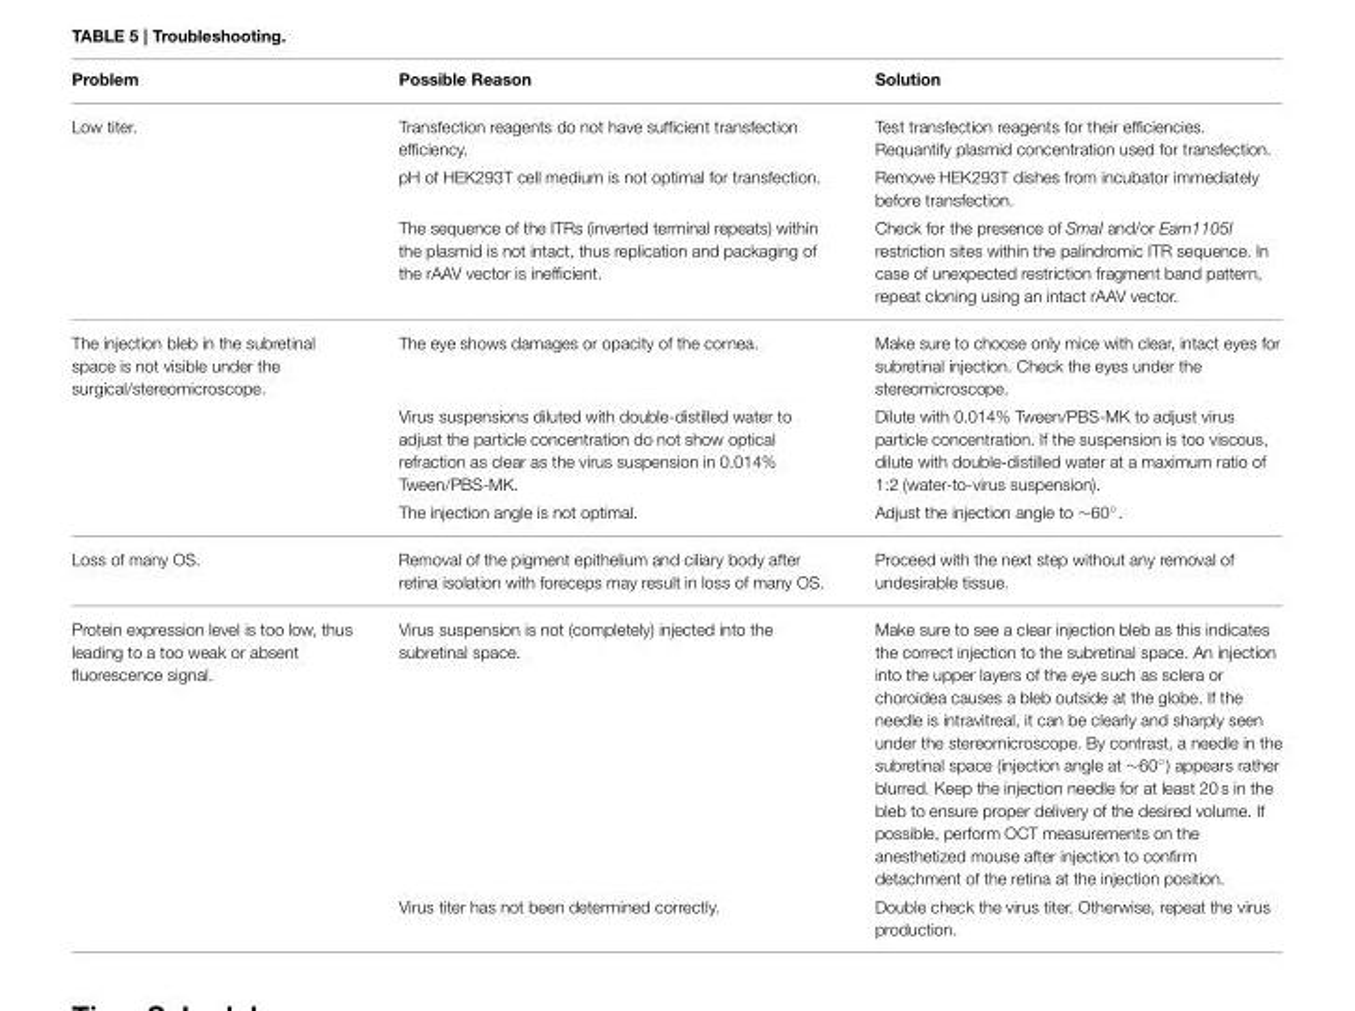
<table><thead><tr><td>Problem</td><td>Possible Reason</td><td>Solution</td></tr></thead><tbody><tr><td rowspan="3">Low titer.</td><td>Transfection reagents do not have sufficient transfection efficiency.</td><td>Test transfection reagents for their efficiencies. Requantify plasmid concentration used for transfection.</td></tr><tr><td>pH of HEK293T cell medium is not optimal for transfection.</td><td>Remove HEK293T dishes from incubator immediately before transfection.</td></tr><tr><td>The sequence of the ITRs (inverted terminal repeats) within the plasmid is not intact, thus replication and packaging of the rAAV vector is inefficient.</td><td>Check for the presence of SmaI and/or Eam1105I restriction sites within the palindromic ITR sequence. In case of unexpected restriction fragment band pattern, repeat cloning using an intact rAAV vector.</td></tr><tr><td rowspan="3">The injection bleb in the subretinal space is not visible under the surgical/stereomicroscope.</td><td>The eye shows damages or opacity of the cornea.</td><td>Make sure to choose only mice with clear, intact eyes for subretinal injection. Check the eyes under the stereomicroscope.</td></tr><tr><td>Virus suspensions diluted with double-distilled water to adjust the particle concentration do not show optical refraction as clear as the virus suspension in 0.014% Tween/PBS-MK.</td><td>Dilute with 0.014% Tween/PBS-MK to adjust virus particle concentration. If the suspension is too viscous, dilute with double-distilled water at a maximum ratio of 1:2 (water-to-virus suspension).</td></tr><tr><td>The injection angle is not optimal.</td><td>Adjust the injection angle to ∼60◦.</td></tr><tr><td>Loss of many OS.</td><td>Removal of the pigment epithelium and ciliary body after retina isolation with foreceps may result in loss of many OS.</td><td>Proceed with the next step without any removal of undesirable tissue.</td></tr><tr><td rowspan="2">Protein expression level is too low, thus leading to a too weak or absent fluorescence signal.</td><td>Virus suspension is not (completely) injected into the subretinal space.</td><td>Make sure to see a clear injection bleb as this indicates the correct injection to the subretinal space. An injection into the upper layers of the eye such as sclera or choroidea causes a bleb outside at the globe. If the needle is intravitreal, it can be clearly and sharply seen under the stereomicroscope. By contrast, a needle in the subretinal space (injection angle at ∼60◦) appears rather blurred. Keep the injection needle for at least 20 s in the bleb to ensure proper delivery of the desired volume. If possible, perform OCT measurements on the anesthetized mouse after injection to confirm detachment of the retina at the injection position.</td></tr><tr><td>Virus titer has not been determined correctly.</td><td>Double check the virus titer. Otherwise, repeat the virus production.</td></tr></tbody></table>